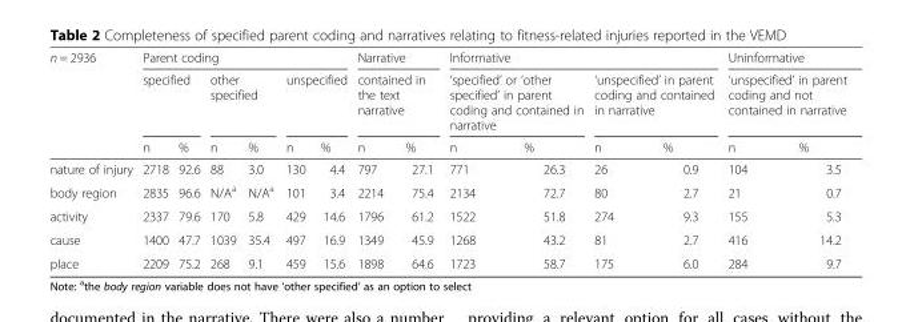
<table><thead><tr><td rowspan="3">n = 2936</td><td colspan="6">Parent coding</td><td rowspan="2" colspan="2">Narrative contained in the text narrative</td><td colspan="4">Informative</td><td rowspan="2" colspan="2">Uninformative ‘unspecified’ in parent coding and not contained in narrative</td></tr><tr><td colspan="2">specified</td><td colspan="2">other specified</td><td colspan="2">unspecified</td><td colspan="2">‘specified’ or ‘other specified’ in parent coding and contained in narrative</td><td colspan="2">‘unspecified’ in parent coding and contained in narrative</td></tr><tr><td>n</td><td>%</td><td>n</td><td>%</td><td>n</td><td>%</td><td>n</td><td>%</td><td>n</td><td>%</td><td>n</td><td>%</td><td>n</td><td>%</td></tr></thead><tbody><tr><td>nature of injury</td><td>2718</td><td>92.6</td><td>88</td><td>3.0</td><td>130</td><td>4.4</td><td>797</td><td>27.1</td><td>771</td><td>26.3</td><td>26</td><td>0.9</td><td>104</td><td>3.5</td></tr><tr><td>body region</td><td>2835</td><td>96.6</td><td>N/A<sup>a</sup></td><td>N/A<sup>a</sup></td><td>101</td><td>3.4</td><td>2214</td><td>75.4</td><td>2134</td><td>72.7</td><td>80</td><td>2.7</td><td>21</td><td>0.7</td></tr><tr><td>activity</td><td>2337</td><td>79.6</td><td>170</td><td>5.8</td><td>429</td><td>14.6</td><td>1796</td><td>61.2</td><td>1522</td><td>51.8</td><td>274</td><td>9.3</td><td>155</td><td>5.3</td></tr><tr><td>cause</td><td>1400</td><td>47.7</td><td>1039</td><td>35.4</td><td>497</td><td>16.9</td><td>1349</td><td>45.9</td><td>1268</td><td>43.2</td><td>81</td><td>2.7</td><td>416</td><td>14.2</td></tr><tr><td>place</td><td>2209</td><td>75.2</td><td>268</td><td>9.1</td><td>459</td><td>15.6</td><td>1898</td><td>64.6</td><td>1723</td><td>58.7</td><td>175</td><td>6.0</td><td>284</td><td>9.7</td></tr></tbody></table>